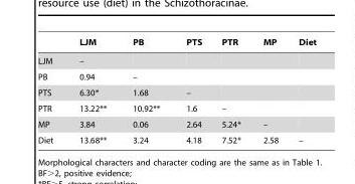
<table><thead><tr><td></td><td>LJM</td><td>PB</td><td>PTS</td><td>PTR</td><td>MP</td><td>Diet</td></tr></thead><tbody><tr><td>LJM</td><td>–</td><td></td><td></td><td></td><td></td><td></td></tr><tr><td>PB</td><td>0.94</td><td>–</td><td></td><td></td><td></td><td></td></tr><tr><td>PTS</td><td>6.30*</td><td>1.68</td><td>–</td><td></td><td></td><td></td></tr><tr><td>PTR</td><td>13.22**</td><td>10.92**</td><td>1.6</td><td>–</td><td></td><td></td></tr><tr><td>MP</td><td>3.84</td><td>0.06</td><td>2.64</td><td>5.24*</td><td>–</td><td></td></tr><tr><td>Diet</td><td>13.68**</td><td>3.24</td><td>4.18</td><td>7.52*</td><td>2.58</td><td>–</td></tr></tbody></table>